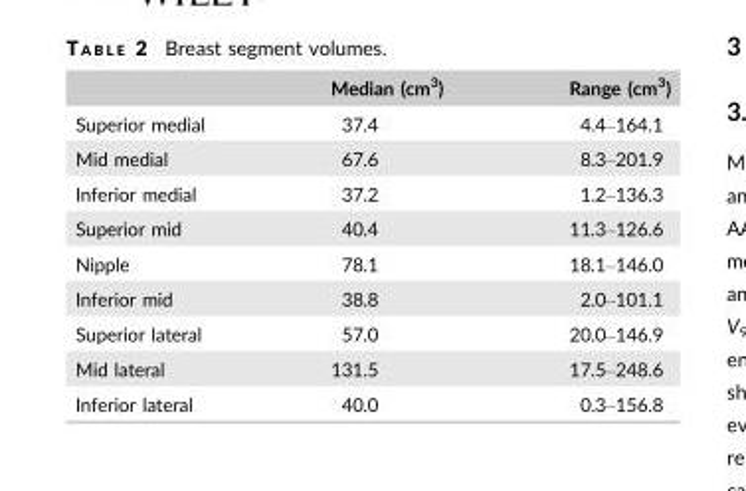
<table><thead><tr><td></td><td>Median (cm<sup>3</sup>)</td><td>Range (cm<sup>3</sup>)</td></tr></thead><tbody><tr><td>Superior medial</td><td>37.4</td><td>4.4–164.1</td></tr><tr><td>Mid medial</td><td>67.6</td><td>8.3–201.9</td></tr><tr><td>Inferior medial</td><td>37.2</td><td>1.2–136.3</td></tr><tr><td>Superior mid</td><td>40.4</td><td>11.3–126.6</td></tr><tr><td>Nipple</td><td>78.1</td><td>18.1–146.0</td></tr><tr><td>Inferior mid</td><td>38.8</td><td>2.0–101.1</td></tr><tr><td>Superior lateral</td><td>57.0</td><td>20.0–146.9</td></tr><tr><td>Mid lateral</td><td>131.5</td><td>17.5–248.6</td></tr><tr><td>Inferior lateral</td><td>40.0</td><td>0.3–156.8</td></tr></tbody></table>